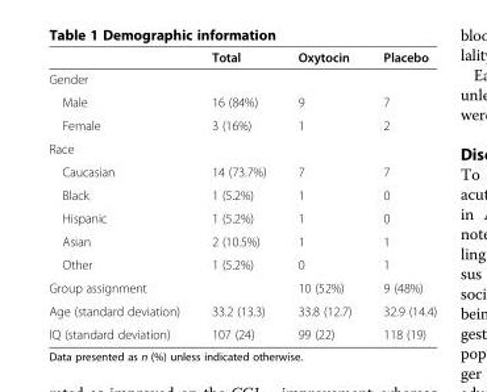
<table><thead><tr><td></td><td>Total</td><td>Oxytocin</td><td>Placebo</td></tr></thead><tbody><tr><td colspan="4">Gender</td></tr><tr><td>Male</td><td>16 (84%)</td><td>9</td><td>7</td></tr><tr><td>Female</td><td>3 (16%)</td><td>1</td><td>2</td></tr><tr><td colspan="4">Race</td></tr><tr><td>Caucasian</td><td>14 (73.7%)</td><td>7</td><td>7</td></tr><tr><td>Black</td><td>1 (5.2%)</td><td>1</td><td>0</td></tr><tr><td>Hispanic</td><td>1 (5.2%)</td><td>1</td><td>0</td></tr><tr><td>Asian</td><td>2 (10.5%)</td><td>1</td><td>1</td></tr><tr><td>Other</td><td>1 (5.2%)</td><td>0</td><td>1</td></tr><tr><td>Group assignment</td><td></td><td>10 (52%)</td><td>9 (48%)</td></tr><tr><td>Age (standard deviation)</td><td>33.2 (13.3)</td><td>33.8 (12.7)</td><td>32.9 (14.4)</td></tr><tr><td>IQ (standard deviation)</td><td>107 (24)</td><td>99 (22)</td><td>118 (19)</td></tr></tbody></table>